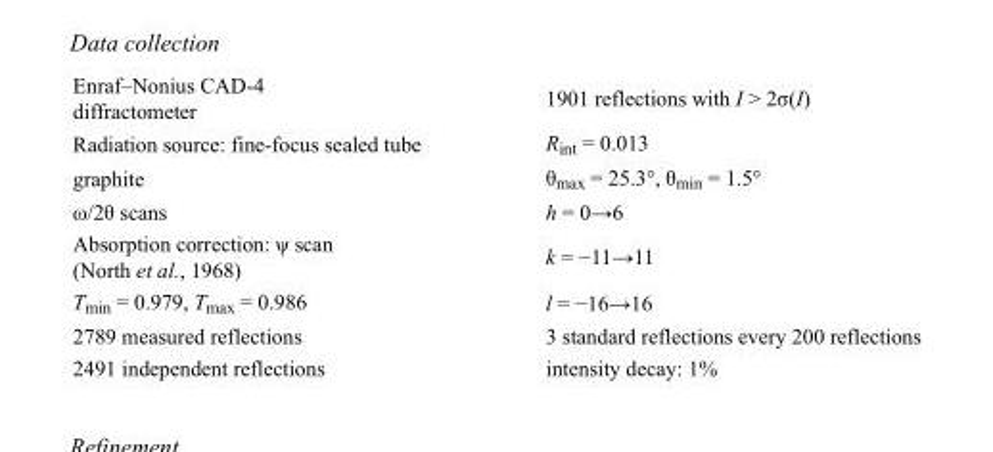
<table><tbody><tr><td>Enraf–Nonius CAD-4 diffractometer</td><td>1901 reflections with I &gt; 2σ(I)</td></tr><tr><td>Radiation source: fine-focus sealed tube</td><td>R<sub>int</sub> = 0.013</td></tr><tr><td>graphite</td><td>θ<sub>max</sub> = 25.3°, θ<sub>min</sub> = 1.5°</td></tr><tr><td>ω/2θ scans</td><td>h = 0→6</td></tr><tr><td>Absorption correction: ψ scan (North et al., 1968)</td><td>k = −11→11</td></tr><tr><td>T<sub>min</sub> = 0.979, T<sub>max</sub> = 0.986</td><td>l = −16→16</td></tr><tr><td>2789 measured reflections</td><td>3 standard reflections every 200 reflections</td></tr><tr><td>2491 independent reflections</td><td>intensity decay: 1%</td></tr></tbody></table>